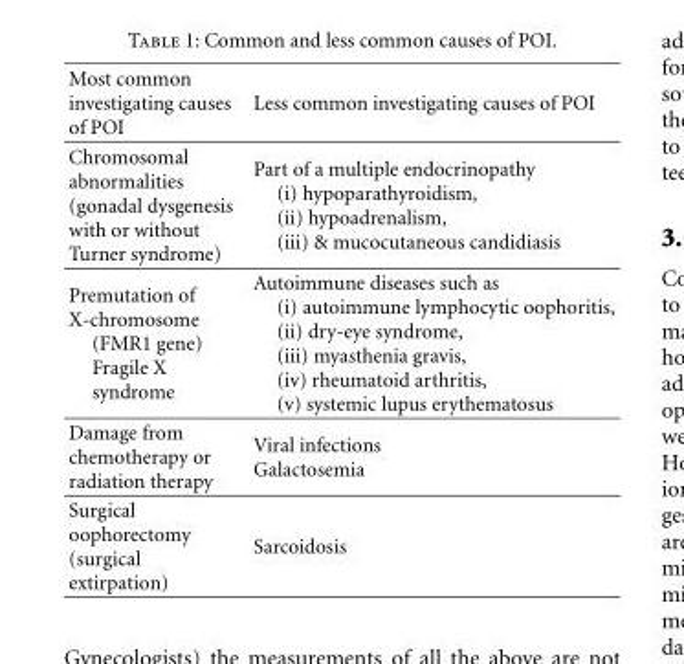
<table><thead><tr><td>Most common investigating causes of POI</td><td>Less common investigating causes of POI</td></tr></thead><tbody><tr><td>Chromosomal abnormalities (gonadal dysgenesis with or without Turner syndrome)</td><td>Part of a multiple endocrinopathy (i) hypoparathyroidism, (ii) hypoadrenalism, (iii) &amp; mucocutaneous candidiasis</td></tr><tr><td>Premutation of X-chromosome (FMR1 gene) Fragile X syndrome</td><td>Autoimmune diseases such as (i) autoimmune lymphocytic oophoritis, (ii) dry-eye syndrome, (iii) myasthenia gravis, (iv) rheumatoid arthritis, (v) systemic lupus erythematosus</td></tr><tr><td>Damage from chemotherapy or radiation therapy</td><td>Viral infections Galactosemia</td></tr><tr><td>Surgical oophorectomy (surgical extirpation)</td><td>Sarcoidosis</td></tr></tbody></table>